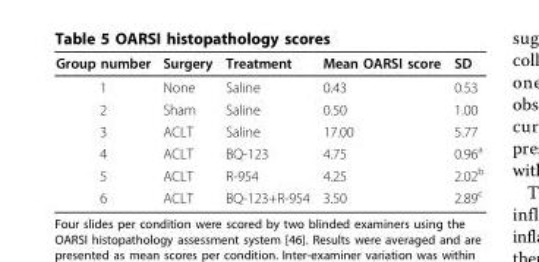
<table><thead><tr><td>Group number</td><td>Surgery</td><td>Treatment</td><td>Mean OARSI score</td><td>SD</td></tr></thead><tbody><tr><td>1</td><td>None</td><td>Saline</td><td>0.43</td><td>0.53</td></tr><tr><td>2</td><td>Sham</td><td>Saline</td><td>0.50</td><td>1.00</td></tr><tr><td>3</td><td>ACLT</td><td>Saline</td><td>17.00</td><td>5.77</td></tr><tr><td>4</td><td>ACLT</td><td>BQ-123</td><td>4.75</td><td>0.96<sup>a</sup></td></tr><tr><td>5</td><td>ACLT</td><td>R-954</td><td>4.25</td><td>2.02<sup>b</sup></td></tr><tr><td>6</td><td>ACLT</td><td>BQ-123+R-954</td><td>3.50</td><td>2.89<sup>c</sup></td></tr></tbody></table>